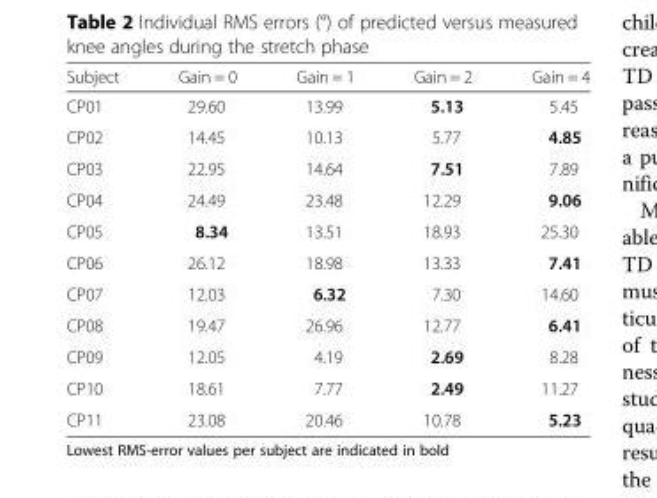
<table><thead><tr><td>Subject</td><td>Gain = 0</td><td>Gain = 1</td><td>Gain = 2</td><td>Gain = 4</td></tr></thead><tbody><tr><td>CP01</td><td>29.60</td><td>13.99</td><td>5.13</td><td>5.45</td></tr><tr><td>CP02</td><td>14.45</td><td>10.13</td><td>5.77</td><td>4.85</td></tr><tr><td>CP03</td><td>22.95</td><td>14.64</td><td>7.51</td><td>7.89</td></tr><tr><td>CP04</td><td>24.49</td><td>23.48</td><td>12.29</td><td>9.06</td></tr><tr><td>CP05</td><td>8.34</td><td>13.51</td><td>18.93</td><td>25.30</td></tr><tr><td>CP06</td><td>26.12</td><td>18.98</td><td>13.33</td><td>7.41</td></tr><tr><td>CP07</td><td>12.03</td><td>6.32</td><td>7.30</td><td>14.60</td></tr><tr><td>CP08</td><td>19.47</td><td>26.96</td><td>12.77</td><td>6.41</td></tr><tr><td>CP09</td><td>12.05</td><td>4.19</td><td>2.69</td><td>8.28</td></tr><tr><td>CP10</td><td>18.61</td><td>7.77</td><td>2.49</td><td>11.27</td></tr><tr><td>CP11</td><td>23.08</td><td>20.46</td><td>10.78</td><td>5.23</td></tr></tbody></table>